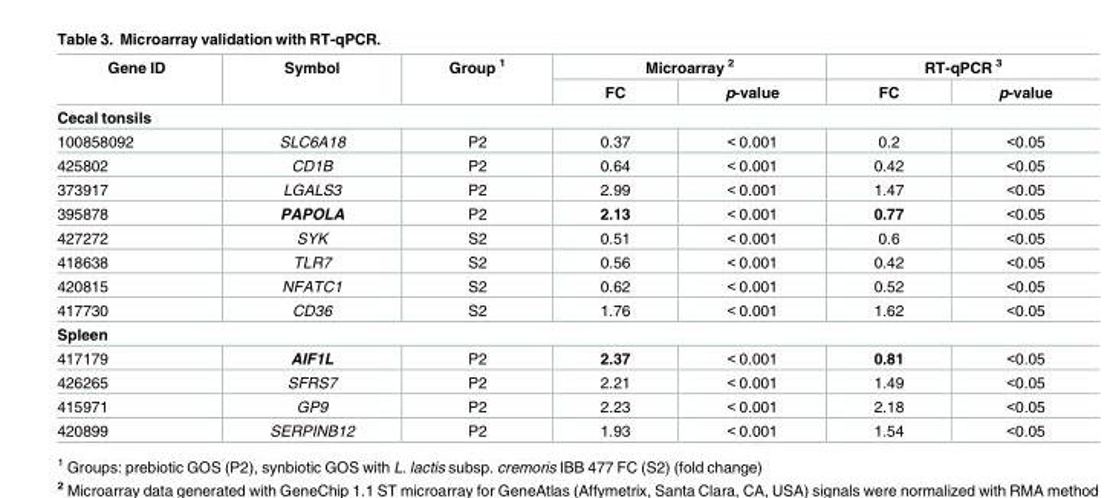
<table><thead><tr><td rowspan="2">Gene ID</td><td rowspan="2">Symbol</td><td rowspan="2">Group <sup>1</sup></td><td colspan="2">Microarray <sup>2</sup></td><td colspan="2">RT-qPCR <sup>3</sup></td></tr><tr><td>FC</td><td>p-value</td><td>FC</td><td>p-value</td></tr></thead><tbody><tr><td colspan="7">Cecal tonsils</td></tr><tr><td>100858092</td><td>SLC6A18</td><td>P2</td><td>0.37</td><td>&lt; 0.001</td><td>0.2</td><td>&lt;0.05</td></tr><tr><td>425802</td><td>CD1B</td><td>P2</td><td>0.64</td><td>&lt; 0.001</td><td>0.42</td><td>&lt;0.05</td></tr><tr><td>373917</td><td>LGALS3</td><td>P2</td><td>2.99</td><td>&lt; 0.001</td><td>1.47</td><td>&lt;0.05</td></tr><tr><td>395878</td><td>PAPOLA</td><td>P2</td><td>2.13</td><td>&lt; 0.001</td><td>0.77</td><td>&lt;0.05</td></tr><tr><td>427272</td><td>SYK</td><td>S2</td><td>0.51</td><td>&lt; 0.001</td><td>0.6</td><td>&lt;0.05</td></tr><tr><td>418638</td><td>TLR7</td><td>S2</td><td>0.56</td><td>&lt; 0.001</td><td>0.42</td><td>&lt;0.05</td></tr><tr><td>420815</td><td>NFATC1</td><td>S2</td><td>0.62</td><td>&lt; 0.001</td><td>0.52</td><td>&lt;0.05</td></tr><tr><td>417730</td><td>CD36</td><td>S2</td><td>1.76</td><td>&lt; 0.001</td><td>1.62</td><td>&lt;0.05</td></tr><tr><td colspan="7">Spleen</td></tr><tr><td>417179</td><td>AIF1L</td><td>P2</td><td>2.37</td><td>&lt; 0.001</td><td>0.81</td><td>&lt;0.05</td></tr><tr><td>426265</td><td>SFRS7</td><td>P2</td><td>2.21</td><td>&lt; 0.001</td><td>1.49</td><td>&lt;0.05</td></tr><tr><td>415971</td><td>GP9</td><td>P2</td><td>2.23</td><td>&lt; 0.001</td><td>2.18</td><td>&lt;0.05</td></tr><tr><td>420899</td><td>SERPINB12</td><td>P2</td><td>1.93</td><td>&lt; 0.001</td><td>1.54</td><td>&lt;0.05</td></tr></tbody></table>